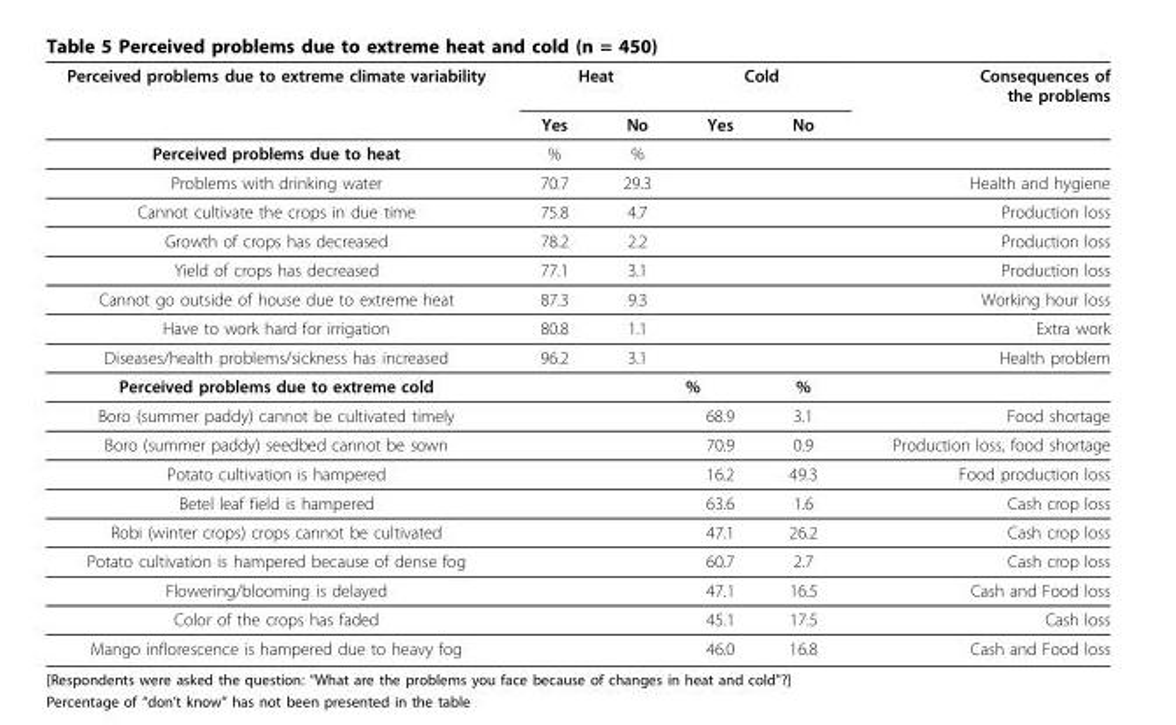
<table><thead><tr><td rowspan="2">Perceived problems due to extreme climate variability</td><td colspan="2">Heat</td><td colspan="2">Cold</td><td rowspan="2">Consequences of the problems</td></tr><tr><td>Yes</td><td>No</td><td>Yes</td><td>No</td></tr></thead><tbody><tr><td>Perceived problems due to heat</td><td>%</td><td>%</td><td></td><td></td><td></td></tr><tr><td>Problems with drinking water</td><td>70.7</td><td>29.3</td><td></td><td></td><td>Health and hygiene</td></tr><tr><td>Cannot cultivate the crops in due time</td><td>75.8</td><td>4.7</td><td></td><td></td><td>Production loss</td></tr><tr><td>Growth of crops has decreased</td><td>78.2</td><td>2.2</td><td></td><td></td><td>Production loss</td></tr><tr><td>Yield of crops has decreased</td><td>77.1</td><td>3.1</td><td></td><td></td><td>Production loss</td></tr><tr><td>Cannot go outside of house due to extreme heat</td><td>87.3</td><td>9.3</td><td></td><td></td><td>Working hour loss</td></tr><tr><td>Have to work hard for irrigation</td><td>80.8</td><td>1.1</td><td></td><td></td><td>Extra work</td></tr><tr><td>Diseases/health problems/sickness has increased</td><td>96.2</td><td>3.1</td><td></td><td></td><td>Health problem</td></tr><tr><td>Perceived problems due to extreme cold</td><td></td><td></td><td>%</td><td>%</td><td></td></tr><tr><td>Boro (summer paddy) cannot be cultivated timely</td><td></td><td></td><td>68.9</td><td>3.1</td><td>Food shortage</td></tr><tr><td>Boro (summer paddy) seedbed cannot be sown</td><td></td><td></td><td>70.9</td><td>0.9</td><td>Production loss, food shortage</td></tr><tr><td>Potato cultivation is hampered</td><td></td><td></td><td>16.2</td><td>49.3</td><td>Food production loss</td></tr><tr><td>Betel leaf field is hampered</td><td></td><td></td><td>63.6</td><td>1.6</td><td>Cash crop loss</td></tr><tr><td>Robi (winter crops) crops cannot be cultivated</td><td></td><td></td><td>47.1</td><td>26.2</td><td>Cash crop loss</td></tr><tr><td>Potato cultivation is hampered because of dense fog</td><td></td><td></td><td>60.7</td><td>2.7</td><td>Cash crop loss</td></tr><tr><td>Flowering/blooming is delayed</td><td></td><td></td><td>47.1</td><td>16.5</td><td>Cash and Food loss</td></tr><tr><td>Color of the crops has faded</td><td></td><td></td><td>45.1</td><td>17.5</td><td>Cash loss</td></tr><tr><td>Mango inflorescence is hampered due to heavy fog</td><td></td><td></td><td>46.0</td><td>16.8</td><td>Cash and Food loss</td></tr></tbody></table>